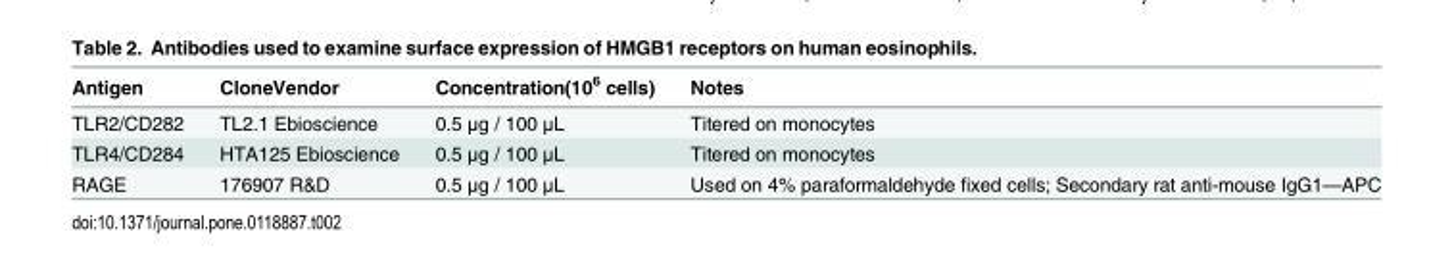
<table><thead><tr><td>Antigen</td><td>CloneVendor</td><td>Concentration(10<sup>6</sup> cells)</td><td>Notes</td></tr></thead><tbody><tr><td>TLR2/CD282</td><td>TL2.1 Ebioscience</td><td>0.5 μg / 100 μL</td><td>Titered on monocytes</td></tr><tr><td>TLR4/CD284</td><td>HTA125 Ebioscience</td><td>0.5 μg / 100 μL</td><td>Titered on monocytes</td></tr><tr><td>RAGE</td><td>176907 R&amp;D</td><td>0.5 μg / 100 μL</td><td>Used on 4% paraformaldehyde fixed cells; Secondary rat anti-mouse IgG1—APC</td></tr></tbody></table>